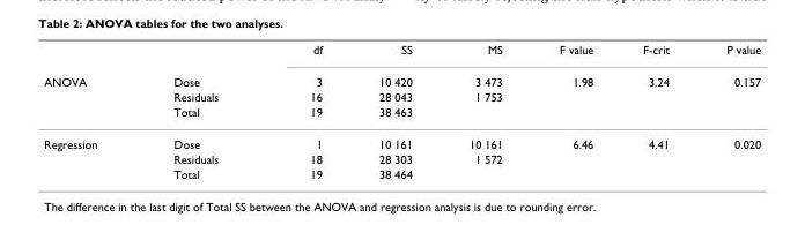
<table><thead><tr><td rowspan="4">ANOVA</td><td rowspan="4">Dose Residuals Total</td><td rowspan="4">df 3 16 19</td><td rowspan="4">SS 10 420 28 043 38 463</td><td rowspan="4">MS 3 473 1 753</td><td rowspan="4">F value 1.98</td><td rowspan="4">F-crit 3.24</td><td rowspan="4">P value 0.157</td></tr><tr></tr><tr></tr><tr></tr></thead><tbody><tr><td rowspan="3">Regression</td><td>Dose</td><td>1</td><td>10 161</td><td>10 161</td><td>6.46</td><td>4.41</td><td>0.020</td></tr><tr><td>Residuals</td><td>18</td><td>28 303</td><td>1 572</td><td></td><td></td><td></td></tr><tr><td>Total</td><td>19</td><td>38 464</td><td></td><td></td><td></td><td></td></tr></tbody></table>